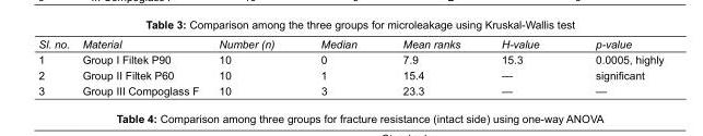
<table><tbody><tr><td>Sl. no.</td><td>Material</td><td>Number (n)</td><td>Median</td><td>Mean ranks</td><td>H-value</td><td>p-value</td></tr><tr><td>1</td><td>Group I Filtek P90</td><td>10</td><td>0</td><td>7.9</td><td>15.3</td><td>0.0005, highly</td></tr><tr><td>2</td><td>Group II Filtek P60</td><td>10</td><td>1</td><td>15.4</td><td>—</td><td>significant</td></tr><tr><td>3</td><td>Group III Compoglass F</td><td>10</td><td>3</td><td>23.3</td><td>—</td><td>—</td></tr></tbody></table>